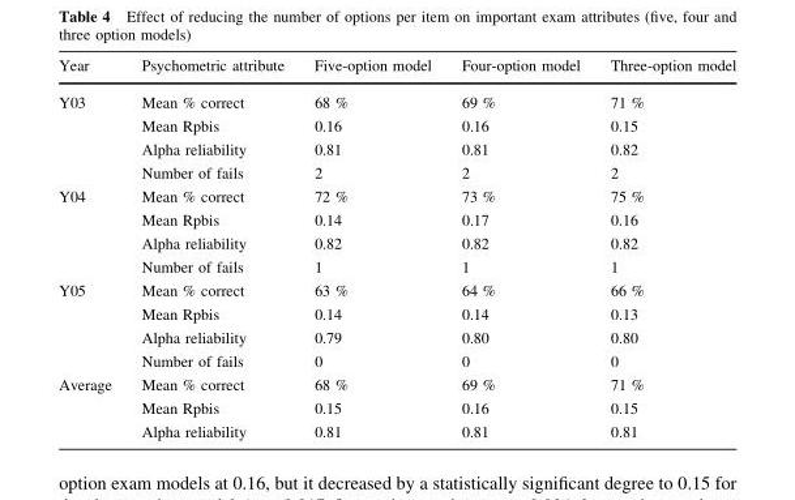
<table><thead><tr><td>Year</td><td>Psychometric attribute</td><td>Five-option model</td><td>Four-option model</td><td>Three-option model</td></tr></thead><tbody><tr><td rowspan="4">Y03</td><td>Mean % correct</td><td>68 %</td><td>69 %</td><td>71 %</td></tr><tr><td>Mean Rpbis</td><td>0.16</td><td>0.16</td><td>0.15</td></tr><tr><td>Alpha reliability</td><td>0.81</td><td>0.81</td><td>0.82</td></tr><tr><td>Number of fails</td><td>2</td><td>2</td><td>2</td></tr><tr><td rowspan="4">Y04</td><td>Mean % correct</td><td>72 %</td><td>73 %</td><td>75 %</td></tr><tr><td>Mean Rpbis</td><td>0.14</td><td>0.17</td><td>0.16</td></tr><tr><td>Alpha reliability</td><td>0.82</td><td>0.82</td><td>0.82</td></tr><tr><td>Number of fails</td><td>1</td><td>1</td><td>1</td></tr><tr><td rowspan="4">Y05</td><td>Mean % correct</td><td>63 %</td><td>64 %</td><td>66 %</td></tr><tr><td>Mean Rpbis</td><td>0.14</td><td>0.14</td><td>0.13</td></tr><tr><td>Alpha reliability</td><td>0.79</td><td>0.80</td><td>0.80</td></tr><tr><td>Number of fails</td><td>0</td><td>0</td><td>0</td></tr><tr><td rowspan="3">Average</td><td>Mean % correct</td><td>68 %</td><td>69 %</td><td>71 %</td></tr><tr><td>Mean Rpbis</td><td>0.15</td><td>0.16</td><td>0.15</td></tr><tr><td>Alpha reliability</td><td>0.81</td><td>0.81</td><td>0.81</td></tr></tbody></table>